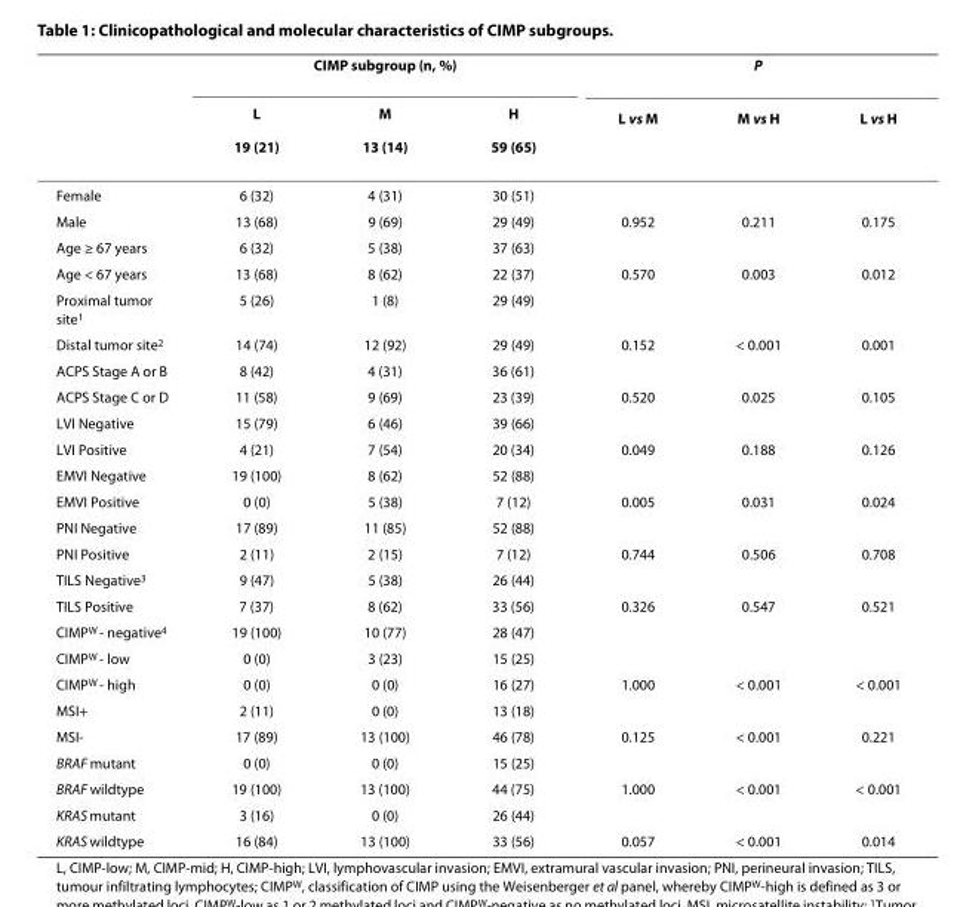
<table><thead><tr><td rowspan="3"></td><td colspan="3">CIMP subgroup (n, %)</td><td colspan="3">P</td></tr><tr><td rowspan="2">L 19 (21)</td><td rowspan="2">M 13 (14)</td><td rowspan="2">H 59 (65)</td><td rowspan="2">L vs M</td><td rowspan="2">M vs H</td><td rowspan="2">L vs H</td></tr><tr></tr></thead><tbody><tr><td>Female</td><td>6 (32)</td><td>4 (31)</td><td>30 (51)</td><td></td><td></td><td></td></tr><tr><td>Male</td><td>13 (68)</td><td>9 (69)</td><td>29 (49)</td><td>0.952</td><td>0.211</td><td>0.175</td></tr><tr><td>Age ≥ 67 years</td><td>6 (32)</td><td>5 (38)</td><td>37 (63)</td><td></td><td></td><td></td></tr><tr><td>Age &lt; 67 years</td><td>13 (68)</td><td>8 (62)</td><td>22 (37)</td><td>0.570</td><td>0.003</td><td>0.012</td></tr><tr><td>Proximal tumor site<sup>1</sup></td><td>5 (26)</td><td>1 (8)</td><td>29 (49)</td><td></td><td></td><td></td></tr><tr><td>Distal tumor site<sup>2</sup></td><td>14 (74)</td><td>12 (92)</td><td>29 (49)</td><td>0.152</td><td>&lt; 0.001</td><td>0.001</td></tr><tr><td>ACPS Stage A or B</td><td>8 (42)</td><td>4 (31)</td><td>36 (61)</td><td></td><td></td><td></td></tr><tr><td>ACPS Stage C or D</td><td>11 (58)</td><td>9 (69)</td><td>23 (39)</td><td>0.520</td><td>0.025</td><td>0.105</td></tr><tr><td>LVI Negative</td><td>15 (79)</td><td>6 (46)</td><td>39 (66)</td><td></td><td></td><td></td></tr><tr><td>LVI Positive</td><td>4 (21)</td><td>7 (54)</td><td>20 (34)</td><td>0.049</td><td>0.188</td><td>0.126</td></tr><tr><td>EMVI Negative</td><td>19 (100)</td><td>8 (62)</td><td>52 (88)</td><td></td><td></td><td></td></tr><tr><td>EMVI Positive</td><td>0 (0)</td><td>5 (38)</td><td>7 (12)</td><td>0.005</td><td>0.031</td><td>0.024</td></tr><tr><td>PNI Negative</td><td>17 (89)</td><td>11 (85)</td><td>52 (88)</td><td></td><td></td><td></td></tr><tr><td>PNI Positive</td><td>2 (11)</td><td>2 (15)</td><td>7 (12)</td><td>0.744</td><td>0.506</td><td>0.708</td></tr><tr><td>TILS Negative<sup>3</sup></td><td>9 (47)</td><td>5 (38)</td><td>26 (44)</td><td></td><td></td><td></td></tr><tr><td>TILS Positive</td><td>7 (37)</td><td>8 (62)</td><td>33 (56)</td><td>0.326</td><td>0.547</td><td>0.521</td></tr><tr><td>CIMP<sup>W</sup> - negative<sup>4</sup></td><td>19 (100)</td><td>10 (77)</td><td>28 (47)</td><td></td><td></td><td></td></tr><tr><td>CIMP<sup>W</sup> - low</td><td>0 (0)</td><td>3 (23)</td><td>15 (25)</td><td></td><td></td><td></td></tr><tr><td>CIMP<sup>W</sup> - high</td><td>0 (0)</td><td>0 (0)</td><td>16 (27)</td><td>1.000</td><td>&lt; 0.001</td><td>&lt; 0.001</td></tr><tr><td>MSI+</td><td>2 (11)</td><td>0 (0)</td><td>13 (18)</td><td></td><td></td><td></td></tr><tr><td>MSI-</td><td>17 (89)</td><td>13 (100)</td><td>46 (78)</td><td>0.125</td><td>&lt; 0.001</td><td>0.221</td></tr><tr><td>BRAF mutant</td><td>0 (0)</td><td>0 (0)</td><td>15 (25)</td><td></td><td></td><td></td></tr><tr><td>BRAF wildtype</td><td>19 (100)</td><td>13 (100)</td><td>44 (75)</td><td>1.000</td><td>&lt; 0.001</td><td>&lt; 0.001</td></tr><tr><td>KRAS mutant</td><td>3 (16)</td><td>0 (0)</td><td>26 (44)</td><td></td><td></td><td></td></tr><tr><td>KRAS wildtype</td><td>16 (84)</td><td>13 (100)</td><td>33 (56)</td><td>0.057</td><td>&lt; 0.001</td><td>0.014</td></tr></tbody></table>